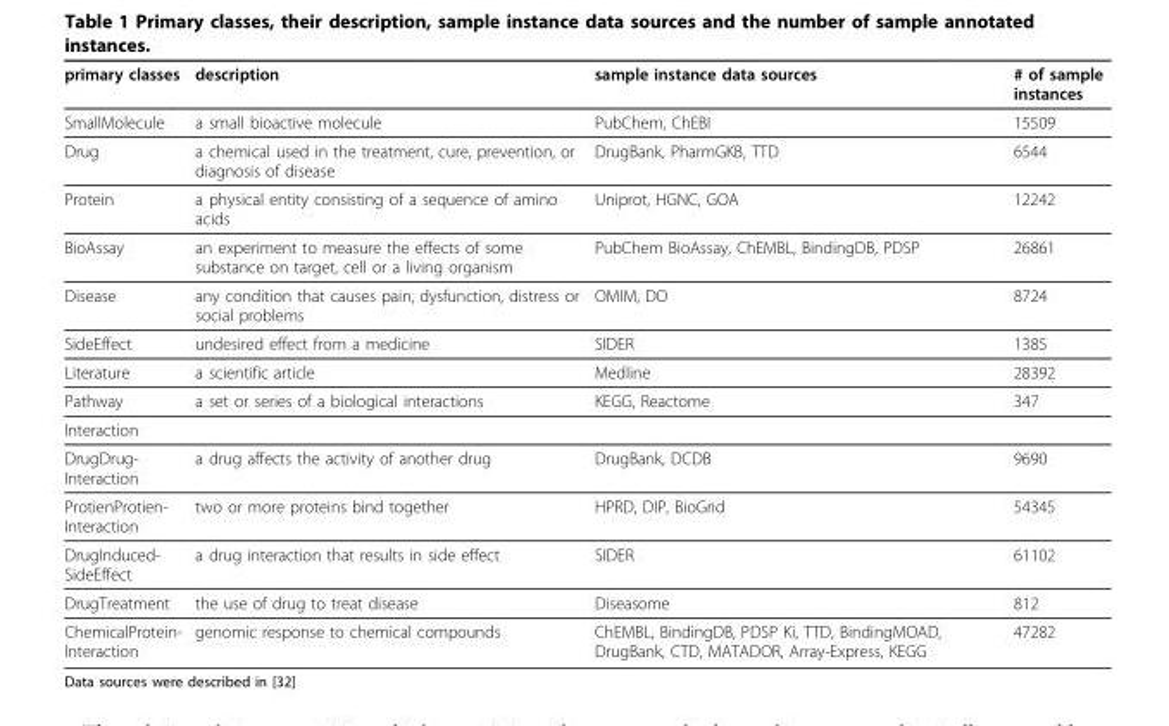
<table><thead><tr><td>primary classes</td><td>description</td><td>sample instance data sources</td><td># of sample instances</td></tr></thead><tbody><tr><td>SmallMolecule</td><td>a small bioactive molecule</td><td>PubChem, ChEBI</td><td>15509</td></tr><tr><td>Drug</td><td>a chemical used in the treatment, cure, prevention, or diagnosis of disease</td><td>DrugBank, PharmGKB, TTD</td><td>6544</td></tr><tr><td>Protein</td><td>a physical entity consisting of a sequence of amino acids</td><td>Uniprot, HGNC, GOA</td><td>12242</td></tr><tr><td>BioAssay</td><td>an experiment to measure the effects of some substance on target, cell or a living organism</td><td>PubChem BioAssay, ChEMBL, BindingDB, PDSP</td><td>26861</td></tr><tr><td>Disease</td><td>any condition that causes pain, dysfunction, distress or social problems</td><td>OMIM, DO</td><td>8724</td></tr><tr><td>SideEffect</td><td>undesired effect from a medicine</td><td>SIDER</td><td>1385</td></tr><tr><td>Literature</td><td>a scientific article</td><td>Medline</td><td>28392</td></tr><tr><td>Pathway</td><td>a set or series of a biological interactions</td><td>KEGG, Reactome</td><td>347</td></tr><tr><td colspan="4">Interaction</td></tr><tr><td>DrugDrug- Interaction</td><td>a drug affects the activity of another drug</td><td>DrugBank, DCDB</td><td>9690</td></tr><tr><td>ProtienProtien- Interaction</td><td>two or more proteins bind together</td><td>HPRD, DIP, BioGrid</td><td>54345</td></tr><tr><td>DrugInduced- SideEffect</td><td>a drug interaction that results in side effect</td><td>SIDER</td><td>61102</td></tr><tr><td>DrugTreatment</td><td>the use of drug to treat disease</td><td>Diseasome</td><td>812</td></tr><tr><td>ChemicalProtein- Interaction</td><td>genomic response to chemical compounds</td><td>ChEMBL, BindingDB, PDSP Ki, TTD, BindingMOAD, DrugBank, CTD, MATADOR, Array-Express, KEGG</td><td>47282</td></tr></tbody></table>